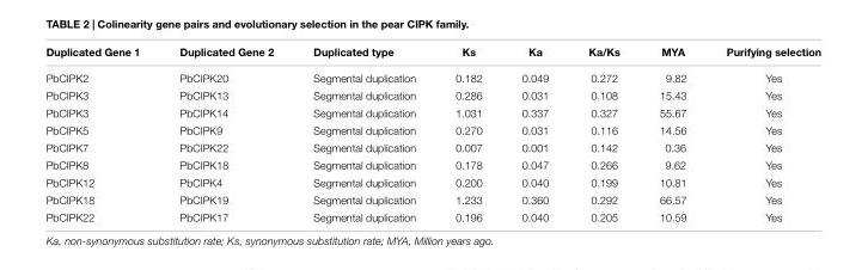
<table><thead><tr><td>Duplicated Gene 1</td><td>Duplicated Gene 2</td><td>Duplicated type</td><td>Ks</td><td>Ka</td><td>Ka/Ks</td><td>MYA</td><td>Purifying selection</td></tr></thead><tbody><tr><td>PbCIPK2</td><td>PbCIPK20</td><td>Segmental duplication</td><td>0.182</td><td>0.049</td><td>0.272</td><td>9.82</td><td>Yes</td></tr><tr><td>PbCIPK3</td><td>PbCIPK13</td><td>Segmental duplication</td><td>0.286</td><td>0.031</td><td>0.108</td><td>15.43</td><td>Yes</td></tr><tr><td>PbCIPK3</td><td>PbCIPK14</td><td>Segmental duplication</td><td>1.031</td><td>0.337</td><td>0.327</td><td>55.67</td><td>Yes</td></tr><tr><td>PbCIPK5</td><td>PbCIPK9</td><td>Segmental duplication</td><td>0.270</td><td>0.031</td><td>0.116</td><td>14.56</td><td>Yes</td></tr><tr><td>PbCIPK7</td><td>PbCIPK22</td><td>Segmental duplication</td><td>0.007</td><td>0.001</td><td>0.142</td><td>0.36</td><td>Yes</td></tr><tr><td>PbCIPK8</td><td>PbCIPK18</td><td>Segmental duplication</td><td>0.178</td><td>0.047</td><td>0.266</td><td>9.62</td><td>Yes</td></tr><tr><td>PbCIPK12</td><td>PbCIPK4</td><td>Segmental duplication</td><td>0.200</td><td>0.040</td><td>0.199</td><td>10.81</td><td>Yes</td></tr><tr><td>PbCIPK18</td><td>PbCIPK19</td><td>Segmental duplication</td><td>1.233</td><td>0.360</td><td>0.292</td><td>66.57</td><td>Yes</td></tr><tr><td>PbCIPK22</td><td>PbCIPK17</td><td>Segmental duplication</td><td>0.196</td><td>0.040</td><td>0.205</td><td>10.59</td><td>Yes</td></tr></tbody></table>